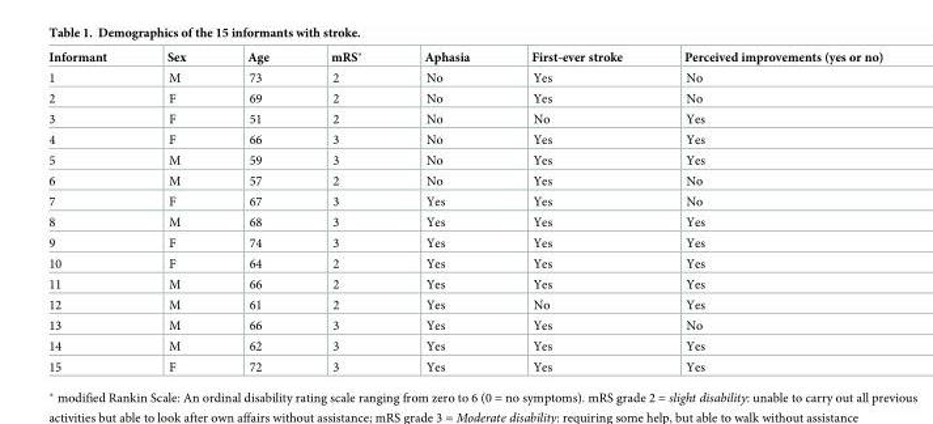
<table><thead><tr><td>Informant</td><td>Sex</td><td>Age</td><td>mRS*</td><td>Aphasia</td><td>First-ever stroke</td><td>Perceived improvements (yes or no)</td></tr></thead><tbody><tr><td>1</td><td>M</td><td>73</td><td>2</td><td>No</td><td>Yes</td><td>No</td></tr><tr><td>2</td><td>F</td><td>69</td><td>2</td><td>No</td><td>Yes</td><td>No</td></tr><tr><td>3</td><td>F</td><td>51</td><td>2</td><td>No</td><td>No</td><td>Yes</td></tr><tr><td>4</td><td>F</td><td>66</td><td>3</td><td>No</td><td>Yes</td><td>Yes</td></tr><tr><td>5</td><td>M</td><td>59</td><td>3</td><td>No</td><td>Yes</td><td>Yes</td></tr><tr><td>6</td><td>M</td><td>57</td><td>2</td><td>No</td><td>Yes</td><td>No</td></tr><tr><td>7</td><td>F</td><td>67</td><td>3</td><td>Yes</td><td>Yes</td><td>No</td></tr><tr><td>8</td><td>M</td><td>68</td><td>3</td><td>Yes</td><td>Yes</td><td>Yes</td></tr><tr><td>9</td><td>F</td><td>74</td><td>3</td><td>Yes</td><td>Yes</td><td>Yes</td></tr><tr><td>10</td><td>F</td><td>64</td><td>2</td><td>Yes</td><td>Yes</td><td>Yes</td></tr><tr><td>11</td><td>M</td><td>66</td><td>2</td><td>Yes</td><td>Yes</td><td>Yes</td></tr><tr><td>12</td><td>M</td><td>61</td><td>2</td><td>Yes</td><td>No</td><td>Yes</td></tr><tr><td>13</td><td>M</td><td>66</td><td>3</td><td>Yes</td><td>Yes</td><td>No</td></tr><tr><td>14</td><td>M</td><td>62</td><td>3</td><td>Yes</td><td>Yes</td><td>Yes</td></tr><tr><td>15</td><td>F</td><td>72</td><td>3</td><td>Yes</td><td>Yes</td><td>Yes</td></tr></tbody></table>